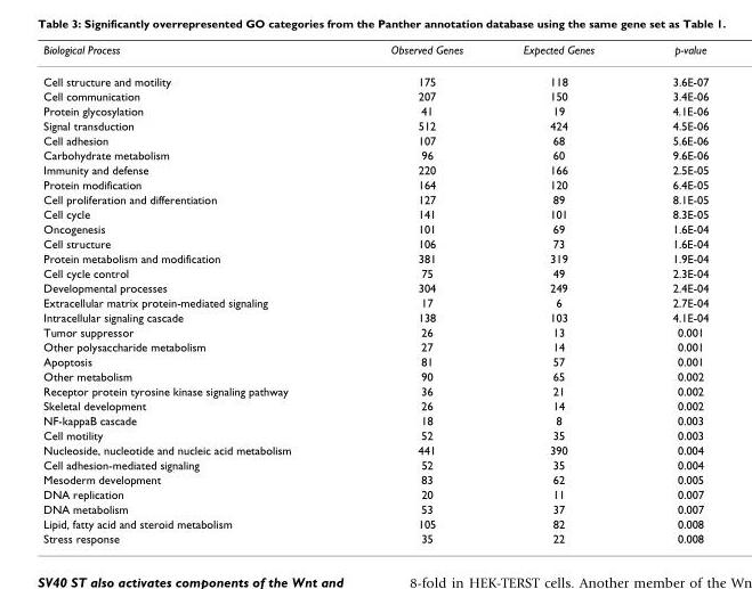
<table><thead><tr><td>Biological Process</td><td>Observed Genes</td><td>Expected Genes</td><td>p-value</td></tr></thead><tbody><tr><td>Cell structure and motility</td><td>175</td><td>118</td><td>3.6E-07</td></tr><tr><td>Cell communication</td><td>207</td><td>150</td><td>3.4E-06</td></tr><tr><td>Protein glycosylation</td><td>41</td><td>19</td><td>4.1E-06</td></tr><tr><td>Signal transduction</td><td>512</td><td>424</td><td>4.5E-06</td></tr><tr><td>Cell adhesion</td><td>107</td><td>68</td><td>5.6E-06</td></tr><tr><td>Carbohydrate metabolism</td><td>96</td><td>60</td><td>9.6E-06</td></tr><tr><td>Immunity and defense</td><td>220</td><td>166</td><td>2.5E-05</td></tr><tr><td>Protein modification</td><td>164</td><td>120</td><td>6.4E-05</td></tr><tr><td>Cell proliferation and differentiation</td><td>127</td><td>89</td><td>8.1E-05</td></tr><tr><td>Cell cycle</td><td>141</td><td>101</td><td>8.3E-05</td></tr><tr><td>Oncogenesis</td><td>101</td><td>69</td><td>1.6E-04</td></tr><tr><td>Cell structure</td><td>106</td><td>73</td><td>1.6E-04</td></tr><tr><td>Protein metabolism and modification</td><td>381</td><td>319</td><td>1.9E-04</td></tr><tr><td>Cell cycle control</td><td>75</td><td>49</td><td>2.3E-04</td></tr><tr><td>Developmental processes</td><td>304</td><td>249</td><td>2.4E-04</td></tr><tr><td>Extracellular matrix protein-mediated signaling</td><td>17</td><td>6</td><td>2.7E-04</td></tr><tr><td>Intracellular signaling cascade</td><td>138</td><td>103</td><td>4.1E-04</td></tr><tr><td>Tumor suppressor</td><td>26</td><td>13</td><td>0.001</td></tr><tr><td>Other polysaccharide metabolism</td><td>27</td><td>14</td><td>0.001</td></tr><tr><td>Apoptosis</td><td>81</td><td>57</td><td>0.001</td></tr><tr><td>Other metabolism</td><td>90</td><td>65</td><td>0.002</td></tr><tr><td>Receptor protein tyrosine kinase signaling pathway</td><td>36</td><td>21</td><td>0.002</td></tr><tr><td>Skeletal development</td><td>26</td><td>14</td><td>0.002</td></tr><tr><td>NF-kappaB cascade</td><td>18</td><td>8</td><td>0.003</td></tr><tr><td>Cell motility</td><td>52</td><td>35</td><td>0.003</td></tr><tr><td>Nucleoside, nucleotide and nucleic acid metabolism</td><td>441</td><td>390</td><td>0.004</td></tr><tr><td>Cell adhesion-mediated signaling</td><td>52</td><td>35</td><td>0.004</td></tr><tr><td>Mesoderm development</td><td>83</td><td>62</td><td>0.005</td></tr><tr><td>DNA replication</td><td>20</td><td>11</td><td>0.007</td></tr><tr><td>DNA metabolism</td><td>53</td><td>37</td><td>0.007</td></tr><tr><td>Lipid, fatty acid and steroid metabolism</td><td>105</td><td>82</td><td>0.008</td></tr><tr><td>Stress response</td><td>35</td><td>22</td><td>0.008</td></tr></tbody></table>